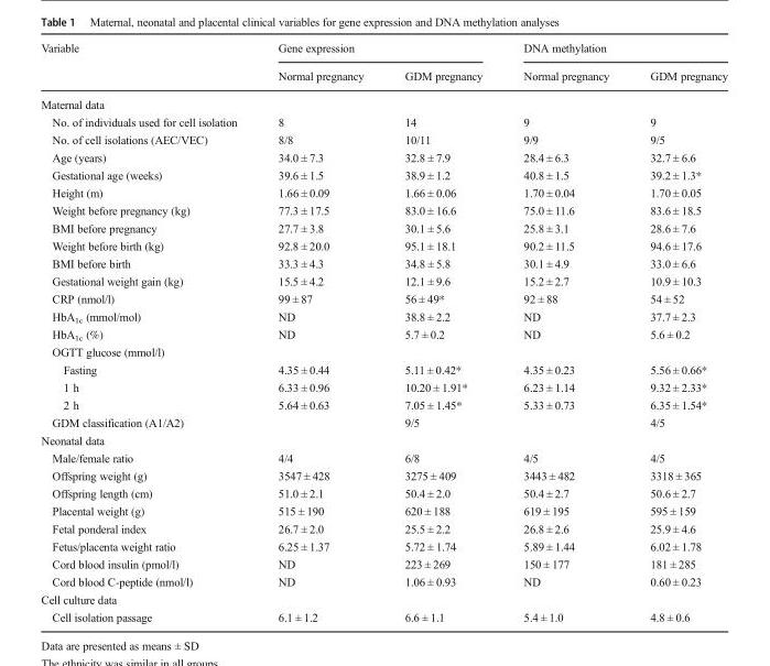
<table><thead><tr><td rowspan="2">Variable</td><td colspan="2">Gene expression</td><td colspan="2">DNA methylation</td></tr><tr><td>Normal pregnancy</td><td>GDM pregnancy</td><td>Normal pregnancy</td><td>GDM pregnancy</td></tr></thead><tbody><tr><td colspan="5">Maternal data</td></tr><tr><td>No. of individuals used for cell isolation</td><td>8</td><td>14</td><td>9</td><td>9</td></tr><tr><td>No. of cell isolations (AEC/VEC)</td><td>8/8</td><td>10/11</td><td>9/9</td><td>9/5</td></tr><tr><td>Age (years)</td><td>34.0 ± 7.3</td><td>32.8 ± 7.9</td><td>28.4 ± 6.3</td><td>32.7 ± 6.6</td></tr><tr><td>Gestational age (weeks)</td><td>39.6 ± 1.5</td><td>38.9 ± 1.2</td><td>40.8 ± 1.5</td><td>39.2 ± 1.3*</td></tr><tr><td>Height (m)</td><td>1.66 ± 0.09</td><td>1.66 ± 0.06</td><td>1.70 ± 0.04</td><td>1.70 ± 0.05</td></tr><tr><td>Weight before pregnancy (kg)</td><td>77.3 ± 17.5</td><td>83.0 ± 16.6</td><td>75.0 ± 11.6</td><td>83.6 ± 18.5</td></tr><tr><td>BMI before pregnancy</td><td>27.7 ± 3.8</td><td>30.1 ± 5.6</td><td>25.8 ± 3.1</td><td>28.6 ± 7.6</td></tr><tr><td>Weight before birth (kg)</td><td>92.8 ± 20.0</td><td>95.1 ± 18.1</td><td>90.2 ± 11.5</td><td>94.6 ± 17.6</td></tr><tr><td>BMI before birth</td><td>33.3 ± 4.3</td><td>34.8 ± 5.8</td><td>30.1 ± 4.9</td><td>33.0 ± 6.6</td></tr><tr><td>Gestational weight gain (kg)</td><td>15.5 ± 4.2</td><td>12.1 ± 9.6</td><td>15.2 ± 2.7</td><td>10.9 ± 10.3</td></tr><tr><td>CRP (nmol/l)</td><td>99 ± 87</td><td>56 ± 49*</td><td>92 ± 88</td><td>54 ± 52</td></tr><tr><td>HbA<sub>1c</sub> (mmol/mol)</td><td>ND</td><td>38.8 ± 2.2</td><td>ND</td><td>37.7 ± 2.3</td></tr><tr><td>HbA<sub>1c</sub> (%)</td><td>ND</td><td>5.7 ± 0.2</td><td>ND</td><td>5.6 ± 0.2</td></tr><tr><td colspan="5">OGTT glucose (mmol/l)</td></tr><tr><td>Fasting</td><td>4.35 ± 0.44</td><td>5.11 ± 0.42*</td><td>4.35 ± 0.23</td><td>5.56 ± 0.66*</td></tr><tr><td>1 h</td><td>6.33 ± 0.96</td><td>10.20 ± 1.91*</td><td>6.23 ± 1.14</td><td>9.32 ± 2.33*</td></tr><tr><td>2 h</td><td>5.64 ± 0.63</td><td>7.05 ± 1.45*</td><td>5.33 ± 0.73</td><td>6.35 ± 1.54*</td></tr><tr><td>GDM classification (A1/A2)</td><td></td><td>9/5</td><td></td><td>4/5</td></tr><tr><td colspan="5">Neonatal data</td></tr><tr><td>Male/female ratio</td><td>4/4</td><td>6/8</td><td>4/5</td><td>4/5</td></tr><tr><td>Offspring weight (g)</td><td>3547 ± 428</td><td>3275 ± 409</td><td>3443 ± 482</td><td>3318 ± 365</td></tr><tr><td>Offspring length (cm)</td><td>51.0 ± 2.1</td><td>50.4 ± 2.0</td><td>50.4 ± 2.7</td><td>50.6 ± 2.7</td></tr><tr><td>Placental weight (g)</td><td>515 ± 190</td><td>620 ± 188</td><td>619 ± 195</td><td>595 ± 159</td></tr><tr><td>Fetal ponderal index</td><td>26.7 ± 2.0</td><td>25.5 ± 2.2</td><td>26.8 ± 2.6</td><td>25.9 ± 4.6</td></tr><tr><td>Fetus/placenta weight ratio</td><td>6.25 ± 1.37</td><td>5.72 ± 1.74</td><td>5.89 ± 1.44</td><td>6.02 ± 1.78</td></tr><tr><td>Cord blood insulin (pmol/l)</td><td>ND</td><td>223 ± 269</td><td>150 ± 177</td><td>181 ± 285</td></tr><tr><td>Cord blood C-peptide (nmol/l)</td><td>ND</td><td>1.06 ± 0.93</td><td>ND</td><td>0.60 ± 0.23</td></tr><tr><td colspan="5">Cell culture data</td></tr><tr><td>Cell isolation passage</td><td>6.1 ± 1.2</td><td>6.6 ± 1.1</td><td>5.4 ± 1.0</td><td>4.8 ± 0.6</td></tr></tbody></table>